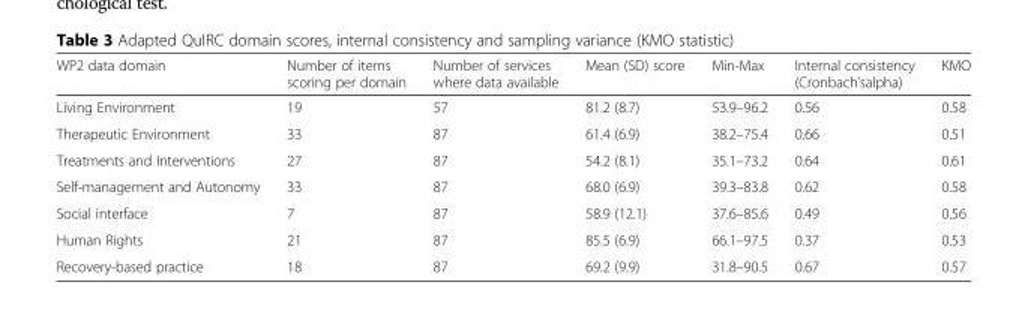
<table><thead><tr><td>WP2 data domain</td><td>Number of items scoring per domain</td><td>Number of services where data available</td><td>Mean (SD) score</td><td>Min-Max</td><td>Internal consistency (Cronbach’salpha)</td><td>KMO</td></tr></thead><tbody><tr><td>Living Environment</td><td>19</td><td>57</td><td>81.2 (8.7)</td><td>53.9–96.2</td><td>0.56</td><td>0.58</td></tr><tr><td>Therapeutic Environment</td><td>33</td><td>87</td><td>61.4 (6.9)</td><td>38.2–75.4</td><td>0.66</td><td>0.51</td></tr><tr><td>Treatments and Interventions</td><td>27</td><td>87</td><td>54.2 (8.1)</td><td>35.1–73.2</td><td>0.64</td><td>0.61</td></tr><tr><td>Self-management and Autonomy</td><td>33</td><td>87</td><td>68.0 (6.9)</td><td>39.3–83.8</td><td>0.62</td><td>0.58</td></tr><tr><td>Social interface</td><td>7</td><td>87</td><td>58.9 (12.1)</td><td>37.6–85.6</td><td>0.49</td><td>0.56</td></tr><tr><td>Human Rights</td><td>21</td><td>87</td><td>85.5 (6.9)</td><td>66.1–97.5</td><td>0.37</td><td>0.53</td></tr><tr><td>Recovery-based practice</td><td>18</td><td>87</td><td>69.2 (9.9)</td><td>31.8–90.5</td><td>0.67</td><td>0.57</td></tr></tbody></table>